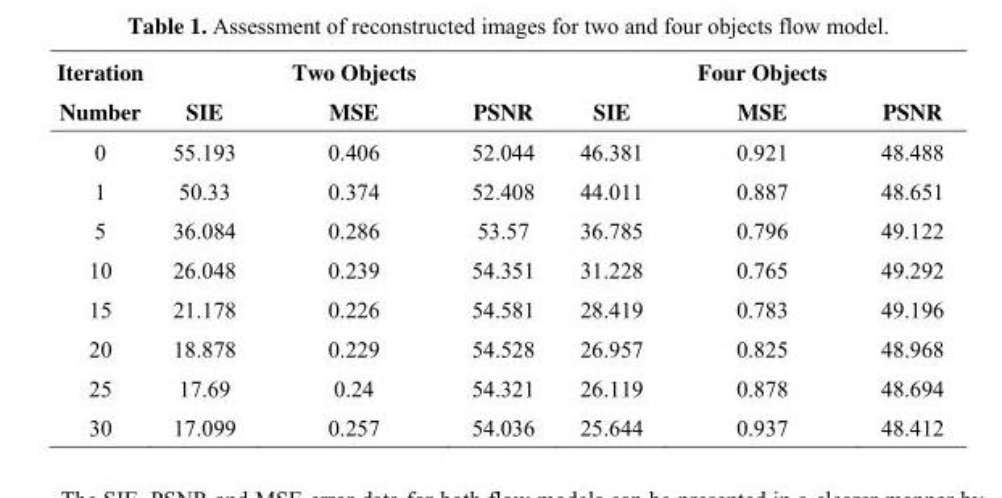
<table><thead><tr><td>Iteration Number</td><td>SIE</td><td>Two Objects MSE</td><td>PSNR</td><td>SIE</td><td>Four Objects MSE</td><td>PSNR</td></tr></thead><tbody><tr><td>0</td><td>55.193</td><td>0.406</td><td>52.044</td><td>46.381</td><td>0.921</td><td>48.488</td></tr><tr><td>1</td><td>50.33</td><td>0.374</td><td>52.408</td><td>44.011</td><td>0.887</td><td>48.651</td></tr><tr><td>5</td><td>36.084</td><td>0.286</td><td>53.57</td><td>36.785</td><td>0.796</td><td>49.122</td></tr><tr><td>10</td><td>26.048</td><td>0.239</td><td>54.351</td><td>31.228</td><td>0.765</td><td>49.292</td></tr><tr><td>15</td><td>21.178</td><td>0.226</td><td>54.581</td><td>28.419</td><td>0.783</td><td>49.196</td></tr><tr><td>20</td><td>18.878</td><td>0.229</td><td>54.528</td><td>26.957</td><td>0.825</td><td>48.968</td></tr><tr><td>25</td><td>17.69</td><td>0.24</td><td>54.321</td><td>26.119</td><td>0.878</td><td>48.694</td></tr><tr><td>30</td><td>17.099</td><td>0.257</td><td>54.036</td><td>25.644</td><td>0.937</td><td>48.412</td></tr></tbody></table>